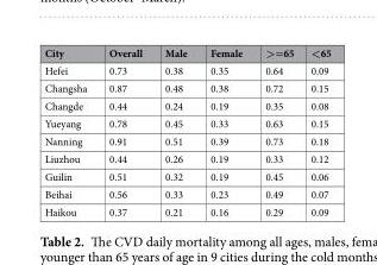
<table><thead><tr><td>City</td><td>Overall</td><td>Male</td><td>Female</td><td>&gt;=65</td><td>&lt;65</td></tr></thead><tbody><tr><td>Hefei</td><td>0.73</td><td>0.38</td><td>0.35</td><td>0.64</td><td>0.09</td></tr><tr><td>Changsha</td><td>0.87</td><td>0.48</td><td>0.38</td><td>0.72</td><td>0.15</td></tr><tr><td>Changde</td><td>0.44</td><td>0.24</td><td>0.19</td><td>0.35</td><td>0.08</td></tr><tr><td>Yueyang</td><td>0.78</td><td>0.45</td><td>0.33</td><td>0.63</td><td>0.15</td></tr><tr><td>Nanning</td><td>0.91</td><td>0.51</td><td>0.39</td><td>0.73</td><td>0.18</td></tr><tr><td>Liuzhou</td><td>0.44</td><td>0.26</td><td>0.19</td><td>0.33</td><td>0.12</td></tr><tr><td>Guilin</td><td>0.51</td><td>0.32</td><td>0.19</td><td>0.45</td><td>0.06</td></tr><tr><td>Beihai</td><td>0.56</td><td>0.33</td><td>0.23</td><td>0.49</td><td>0.07</td></tr><tr><td>Haikou</td><td>0.37</td><td>0.21</td><td>0.16</td><td>0.29</td><td>0.09</td></tr></tbody></table>